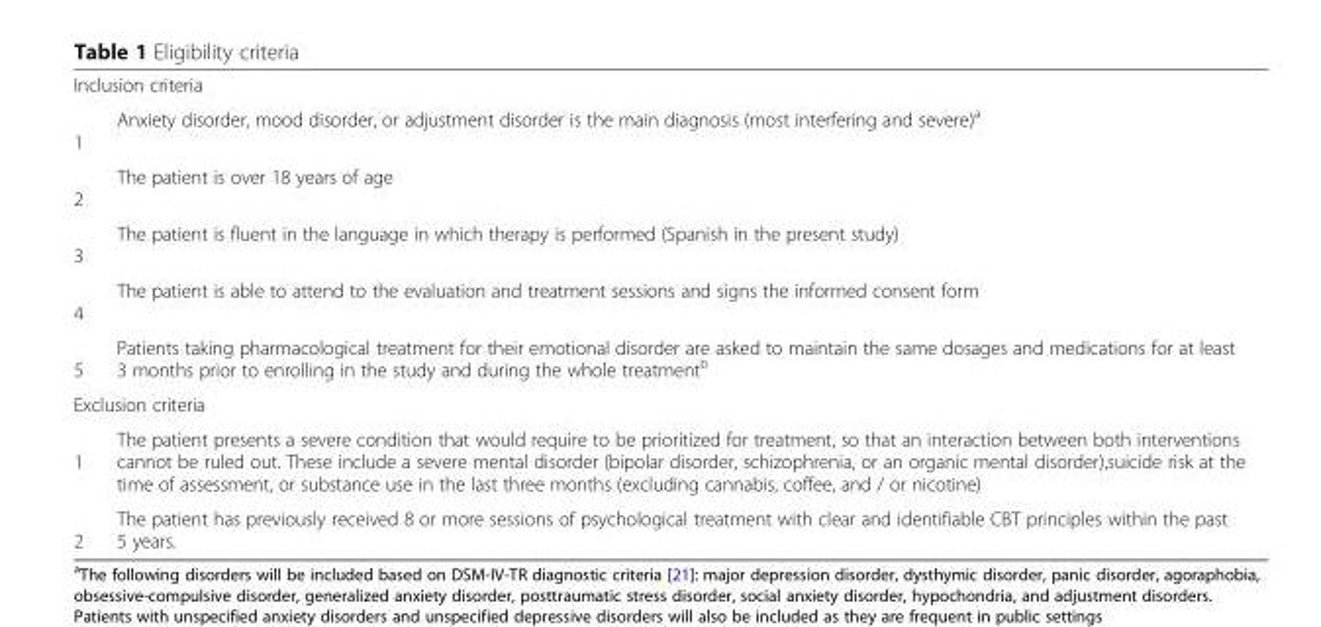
<table><tbody><tr><td colspan="2">Inclusion criteria</td></tr><tr><td>1</td><td>Anxiety disorder, mood disorder, or adjustment disorder is the main diagnosis (most interfering and severe)<sup>a</sup></td></tr><tr><td>2</td><td>The patient is over 18 years of age</td></tr><tr><td>3</td><td>The patient is fluent in the language in which therapy is performed (Spanish in the present study)</td></tr><tr><td>4</td><td>The patient is able to attend to the evaluation and treatment sessions and signs the informed consent form</td></tr><tr><td>5</td><td>Patients taking pharmacological treatment for their emotional disorder are asked to maintain the same dosages and medications for at least 3 months prior to enrolling in the study and during the whole treatment<sup>b</sup></td></tr><tr><td colspan="2">Exclusion criteria</td></tr><tr><td>1</td><td>The patient presents a severe condition that would require to be prioritized for treatment, so that an interaction between both interventions cannot be ruled out. These include a severe mental disorder (bipolar disorder, schizophrenia, or an organic mental disorder),suicide risk at the time of assessment, or substance use in the last three months (excluding cannabis, coffee, and / or nicotine)</td></tr><tr><td>2</td><td>The patient has previously received 8 or more sessions of psychological treatment with clear and identifiable CBT principles within the past 5 years.</td></tr></tbody></table>